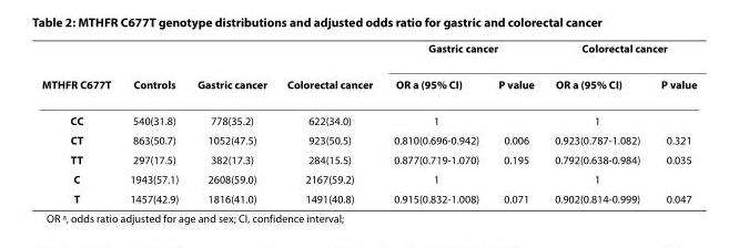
<table><thead><tr><td rowspan="2">MTHFR C677T</td><td rowspan="2">Controls</td><td rowspan="2">Gastric cancer</td><td rowspan="2">Colorectal cancer</td><td colspan="2">Gastric cancer</td><td colspan="2">Colorectal cancer</td></tr><tr><td>OR <sup>a</sup> (95% CI)</td><td>P value</td><td>OR <sup>a</sup> (95% CI)</td><td>P value</td></tr></thead><tbody><tr><td>CC</td><td>540(31.8)</td><td>778(35.2)</td><td>622(34.0)</td><td>1</td><td></td><td>1</td><td></td></tr><tr><td>CT</td><td>863(50.7)</td><td>1052(47.5)</td><td>923(50.5)</td><td>0.810(0.696-0.942)</td><td>0.006</td><td>0.923(0.787-1.082)</td><td>0.321</td></tr><tr><td>TT</td><td>297(17.5)</td><td>382(17.3)</td><td>284(15.5)</td><td>0.877(0.719-1.070)</td><td>0.195</td><td>0.792(0.638-0.984)</td><td>0.035</td></tr><tr><td>C</td><td>1943(57.1)</td><td>2608(59.0)</td><td>2167(59.2)</td><td>1</td><td></td><td>1</td><td></td></tr><tr><td>T</td><td>1457(42.9)</td><td>1816(41.0)</td><td>1491(40.8)</td><td>0.915(0.832-1.008)</td><td>0.071</td><td>0.902(0.814-0.999)</td><td>0.047</td></tr></tbody></table>